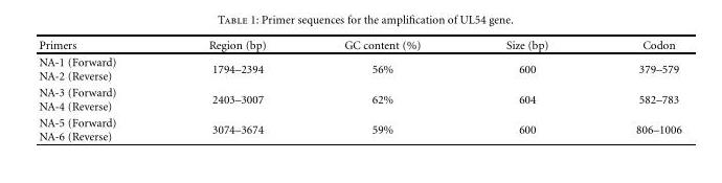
<table><thead><tr><td>Primers</td><td>Region (bp)</td><td>GC content (%)</td><td>Size (bp)</td><td>Codon</td></tr></thead><tbody><tr><td>NA-1 (Forward) NA-2 (Reverse)</td><td>1794–2394</td><td>56%</td><td>600</td><td>379–579</td></tr><tr><td>NA-3 (Forward) NA-4 (Reverse)</td><td>2403–3007</td><td>62%</td><td>604</td><td>582–783</td></tr><tr><td>NA-5 (Forward) NA-6 (Reverse)</td><td>3074–3674</td><td>59%</td><td>600</td><td>806–1006</td></tr></tbody></table>